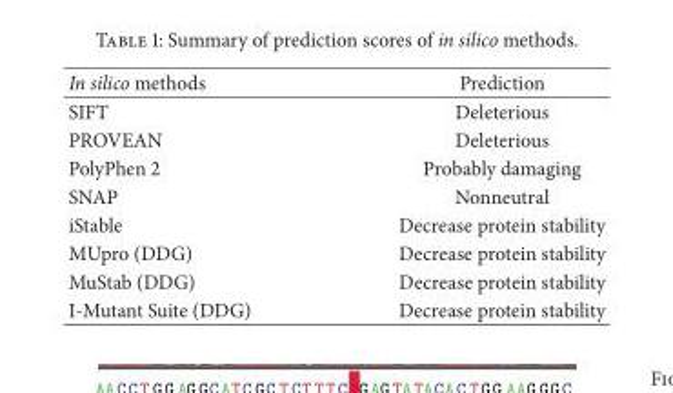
<table><thead><tr><td>In silico methods</td><td>Prediction</td></tr></thead><tbody><tr><td>SIFT</td><td>Deleterious</td></tr><tr><td>PROVEAN</td><td>Deleterious</td></tr><tr><td>PolyPhen 2</td><td>Probably damaging</td></tr><tr><td>SNAP</td><td>Nonneutral</td></tr><tr><td>iStable</td><td>Decrease protein stability</td></tr><tr><td>MUpro (DDG)</td><td>Decrease protein stability</td></tr><tr><td>MuStab (DDG)</td><td>Decrease protein stability</td></tr><tr><td>I-Mutant Suite (DDG)</td><td>Decrease protein stability</td></tr></tbody></table>